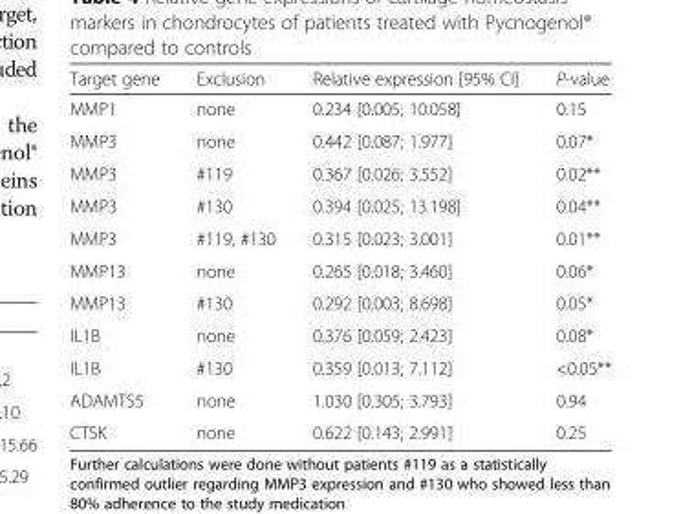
<table><thead><tr><td>Target gene</td><td>Exclusion</td><td>Relative expression [95% CI]</td><td>P-value</td></tr></thead><tbody><tr><td>MMP1</td><td>none</td><td>0.234 [0.005; 10.058]</td><td>0.15</td></tr><tr><td>MMP3</td><td>none</td><td>0.442 [0.087; 1.977]</td><td>0.07*</td></tr><tr><td>MMP3</td><td>#119</td><td>0.367 [0.026; 3.552]</td><td>0.02**</td></tr><tr><td>MMP3</td><td>#130</td><td>0.394 [0.025; 13.198]</td><td>0.04**</td></tr><tr><td>MMP3</td><td>#119, #130</td><td>0.315 [0.023; 3.001]</td><td>0.01**</td></tr><tr><td>MMP13</td><td>none</td><td>0.265 [0.018; 3.460]</td><td>0.06*</td></tr><tr><td>MMP13</td><td>#130</td><td>0.292 [0.003; 8.698]</td><td>0.05*</td></tr><tr><td>IL1B</td><td>none</td><td>0.376 [0.059; 2.423]</td><td>0.08*</td></tr><tr><td>IL1B</td><td>#130</td><td>0.359 [0.013; 7.112]</td><td>&lt;0.05**</td></tr><tr><td>ADAMTS5</td><td>none</td><td>1.030 [0.305; 3.793]</td><td>0.94</td></tr><tr><td>CTSK</td><td>none</td><td>0.622 [0.143; 2.991]</td><td>0.25</td></tr></tbody></table>